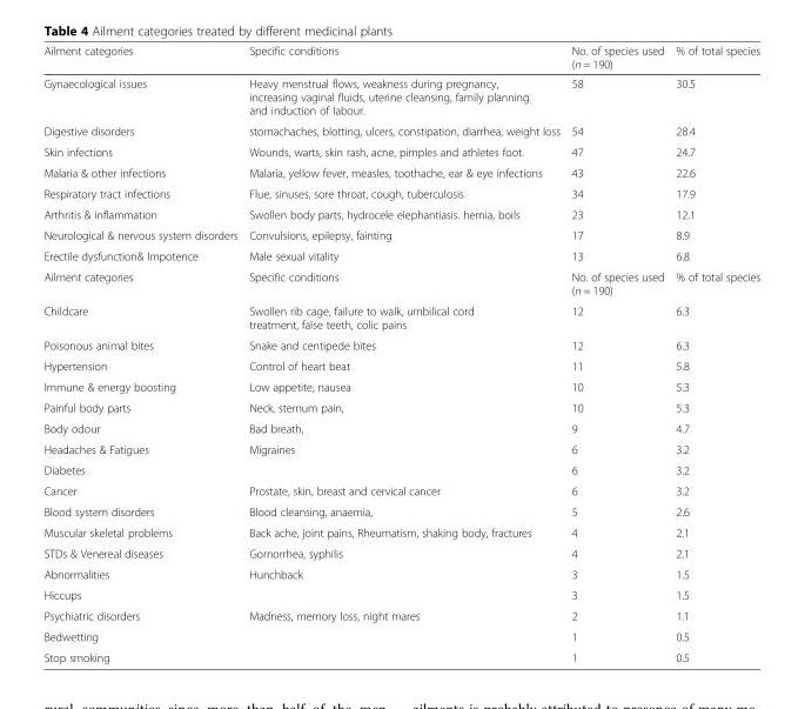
<table><thead><tr><td>Ailment categories</td><td>Specific conditions</td><td>No. of species used (n = 190)</td><td>% of total species</td></tr></thead><tbody><tr><td>Gynaecological issues</td><td>Heavy menstrual flows, weakness during pregnancy, increasing vaginal fluids, uterine cleansing, family planning and induction of labour.</td><td>58</td><td>30.5</td></tr><tr><td>Digestive disorders</td><td>stomachaches, blotting, ulcers, constipation, diarrhea, weight loss</td><td>54</td><td>28.4</td></tr><tr><td>Skin infections</td><td>Wounds, warts, skin rash, acne, pimples and athletes foot.</td><td>47</td><td>24.7</td></tr><tr><td>Malaria &amp; other infections</td><td>Malaria, yellow fever, measles, toothache, ear &amp; eye infections</td><td>43</td><td>22.6</td></tr><tr><td>Respiratory tract infections</td><td>Flue, sinuses, sore throat, cough, tuberculosis</td><td>34</td><td>17.9</td></tr><tr><td>Arthritis &amp; inflammation</td><td>Swollen body parts, hydrocele elephantiasis. hernia, boils</td><td>23</td><td>12.1</td></tr><tr><td>Neurological &amp; nervous system disorders</td><td>Convulsions, epilepsy, fainting</td><td>17</td><td>8.9</td></tr><tr><td>Erectile dysfunction&amp; Impotence</td><td>Male sexual vitality</td><td>13</td><td>6.8</td></tr><tr><td>Ailment categories</td><td>Specific conditions</td><td>No. of species used (n = 190)</td><td>% of total species</td></tr><tr><td>Childcare</td><td>Swollen rib cage, failure to walk, umbilical cord treatment, false teeth, colic pains</td><td>12</td><td>6.3</td></tr><tr><td>Poisonous animal bites</td><td>Snake and centipede bites</td><td>12</td><td>6.3</td></tr><tr><td>Hypertension</td><td>Control of heart beat</td><td>11</td><td>5.8</td></tr><tr><td>Immune &amp; energy boosting</td><td>Low appetite, nausea</td><td>10</td><td>5.3</td></tr><tr><td>Painful body parts</td><td>Neck, sternum pain,</td><td>10</td><td>5.3</td></tr><tr><td>Body odour</td><td>Bad breath,</td><td>9</td><td>4.7</td></tr><tr><td>Headaches &amp; Fatigues</td><td>Migraines</td><td>6</td><td>3.2</td></tr><tr><td>Diabetes</td><td></td><td>6</td><td>3.2</td></tr><tr><td>Cancer</td><td>Prostate, skin, breast and cervical cancer</td><td>6</td><td>3.2</td></tr><tr><td>Blood system disorders</td><td>Blood cleansing, anaemia,</td><td>5</td><td>2.6</td></tr><tr><td>Muscular skeletal problems</td><td>Back ache, joint pains, Rheumatism, shaking body, fractures</td><td>4</td><td>2.1</td></tr><tr><td>STDs &amp; Venereal diseases</td><td>Gornorrhea, syphilis</td><td>4</td><td>2.1</td></tr><tr><td>Abnormalities</td><td>Hunchback</td><td>3</td><td>1.5</td></tr><tr><td>Hiccups</td><td></td><td>3</td><td>1.5</td></tr><tr><td>Psychiatric disorders</td><td>Madness, memory loss, night mares</td><td>2</td><td>1.1</td></tr><tr><td>Bedwetting</td><td></td><td>1</td><td>0.5</td></tr><tr><td>Stop smoking</td><td></td><td>1</td><td>0.5</td></tr></tbody></table>